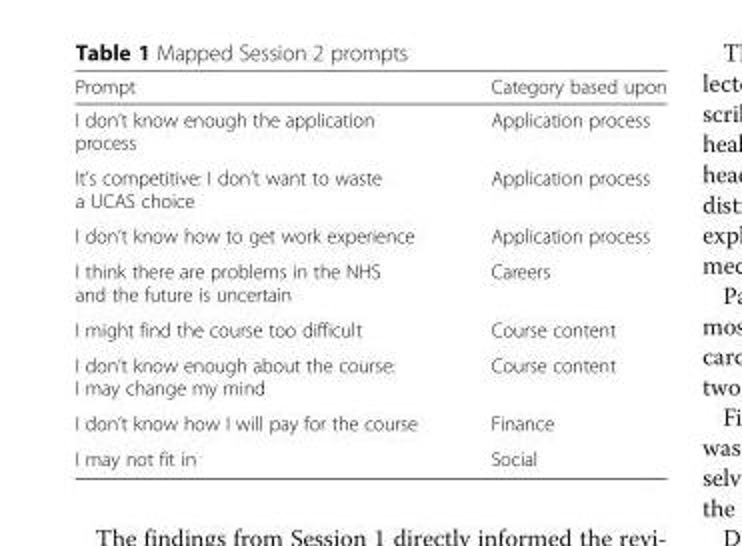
<table><thead><tr><td>Prompt</td><td>Category based upon</td></tr></thead><tbody><tr><td>I don’t know enough the application process</td><td>Application process</td></tr><tr><td>It’s competitive: I don’t want to waste a UCAS choice</td><td>Application process</td></tr><tr><td>I don’t know how to get work experience</td><td>Application process</td></tr><tr><td>I think there are problems in the NHS and the future is uncertain</td><td>Careers</td></tr><tr><td>I might find the course too difficult</td><td>Course content</td></tr><tr><td>I don’t know enough about the course: I may change my mind</td><td>Course content</td></tr><tr><td>I don’t know how I will pay for the course</td><td>Finance</td></tr><tr><td>I may not fit in</td><td>Social</td></tr></tbody></table>